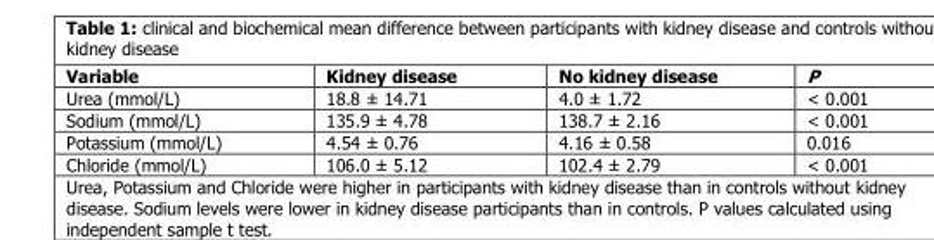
<table><thead><tr><td>Variable</td><td>Kidney disease</td><td>No kidney disease</td><td>P</td></tr></thead><tbody><tr><td>Urea (mmol/L)</td><td>18.8 ± 14.71</td><td>4.0 ± 1.72</td><td>˂ 0.001</td></tr><tr><td>Sodium (mmol/L)</td><td>135.9 ± 4.78</td><td>138.7 ± 2.16</td><td>˂ 0.001</td></tr><tr><td>Potassium (mmol/L)</td><td>4.54 ± 0.76</td><td>4.16 ± 0.58</td><td>0.016</td></tr><tr><td>Chloride (mmol/L)</td><td>106.0 ± 5.12</td><td>102.4 ± 2.79</td><td>˂ 0.001</td></tr></tbody></table>